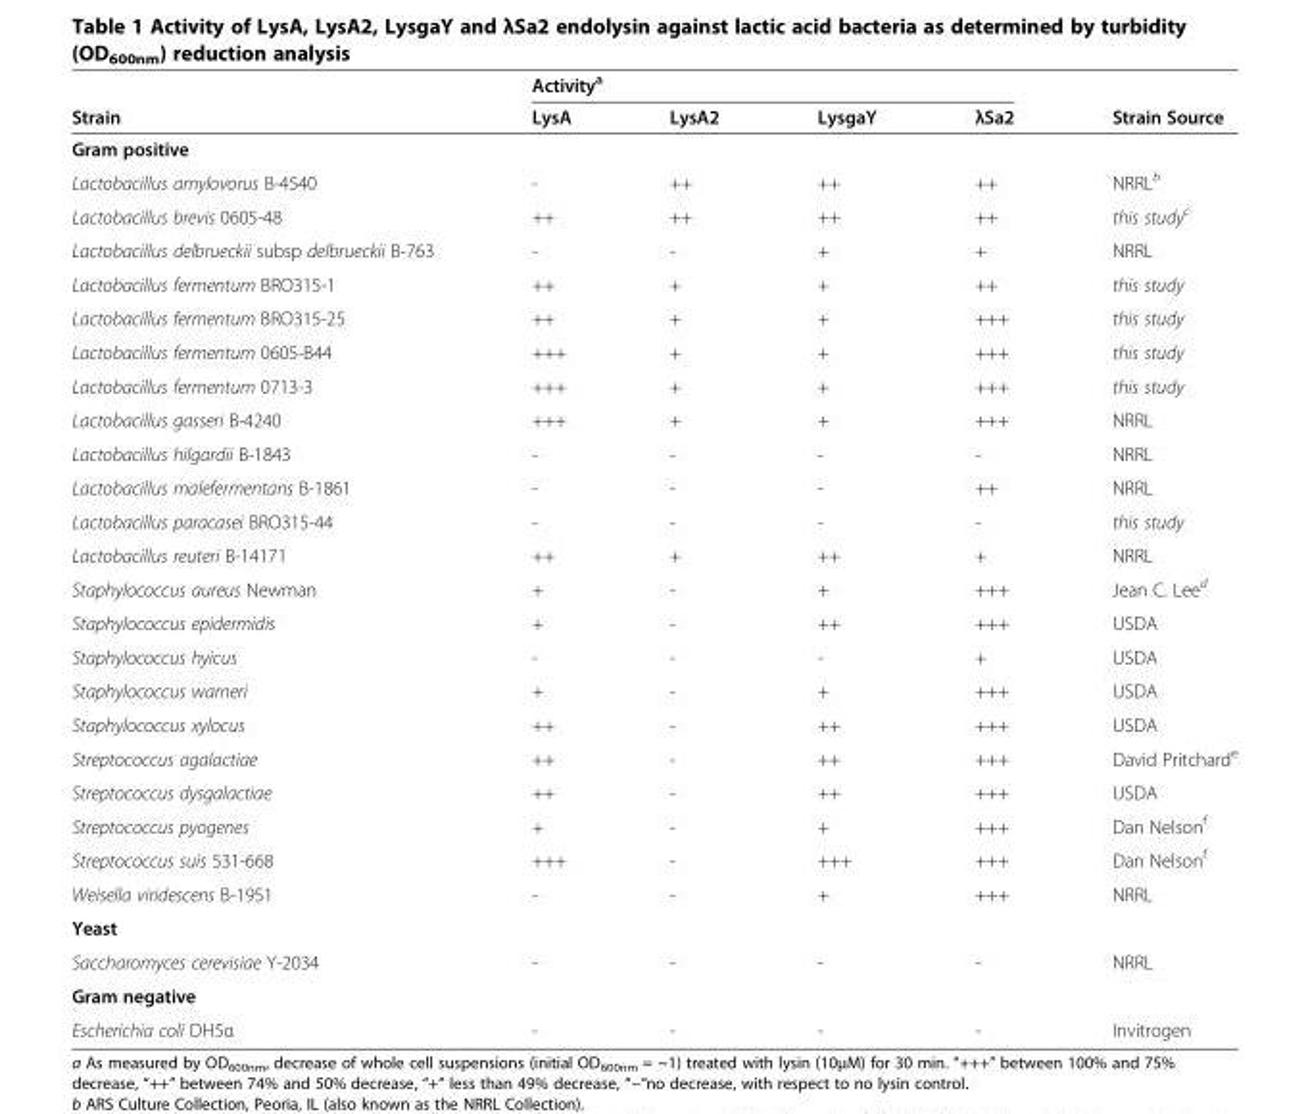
<table><thead><tr><td rowspan="2">Strain</td><td colspan="4">Activity<sup>a</sup></td><td rowspan="2">Strain Source</td></tr><tr><td>LysA</td><td>LysA2</td><td>LysgaY</td><td>λSa2</td></tr></thead><tbody><tr><td colspan="6">Gram positive</td></tr><tr><td>Lactobacillus amylovorus B-4540</td><td>-</td><td>++</td><td>++</td><td>++</td><td>NRRL<sup>b</sup></td></tr><tr><td>Lactobacillus brevis 0605-48</td><td>++</td><td>++</td><td>++</td><td>++</td><td>this study<sup>c</sup></td></tr><tr><td>Lactobacillus delbrueckii subsp delbrueckii B-763</td><td>-</td><td>-</td><td>+</td><td>+</td><td>NRRL</td></tr><tr><td>Lactobacillus fermentum BRO315-1</td><td>++</td><td>+</td><td>+</td><td>++</td><td>this study</td></tr><tr><td>Lactobacillus fermentum BRO315-25</td><td>++</td><td>+</td><td>+</td><td>+++</td><td>this study</td></tr><tr><td>Lactobacillus fermentum 0605-B44</td><td>+++</td><td>+</td><td>+</td><td>+++</td><td>this study</td></tr><tr><td>Lactobacillus fermentum 0713-3</td><td>+++</td><td>+</td><td>+</td><td>+++</td><td>this study</td></tr><tr><td>Lactobacillus gasseri B-4240</td><td>+++</td><td>+</td><td>+</td><td>+++</td><td>NRRL</td></tr><tr><td>Lactobacillus hilgardii B-1843</td><td>-</td><td>-</td><td>-</td><td>-</td><td>NRRL</td></tr><tr><td>Lactobacillus malefermentans B-1861</td><td>-</td><td>-</td><td>-</td><td>++</td><td>NRRL</td></tr><tr><td>Lactobacillus paracasei BRO315-44</td><td>-</td><td>-</td><td>-</td><td>-</td><td>this study</td></tr><tr><td>Lactobacillus reuteri B-14171</td><td>++</td><td>+</td><td>++</td><td>+</td><td>NRRL</td></tr><tr><td>Staphylococcus aureus Newman</td><td>+</td><td>-</td><td>+</td><td>+++</td><td>Jean C. Lee<sup>d</sup></td></tr><tr><td>Staphylococcus epidermidis</td><td>+</td><td>-</td><td>++</td><td>+++</td><td>USDA</td></tr><tr><td>Staphylococcus hyicus</td><td>-</td><td>-</td><td>-</td><td>+</td><td>USDA</td></tr><tr><td>Staphylococcus warneri</td><td>+</td><td>-</td><td>+</td><td>+++</td><td>USDA</td></tr><tr><td>Staphylococcus xylocus</td><td>++</td><td>-</td><td>++</td><td>+++</td><td>USDA</td></tr><tr><td>Streptococcus agalactiae</td><td>++</td><td>-</td><td>++</td><td>+++</td><td>David Pritchard<sup>e</sup></td></tr><tr><td>Streptococcus dysgalactiae</td><td>++</td><td>-</td><td>++</td><td>+++</td><td>USDA</td></tr><tr><td>Streptococcus pyogenes</td><td>+</td><td>-</td><td>+</td><td>+++</td><td>Dan Nelson<sup>f</sup></td></tr><tr><td>Streptococcus suis 531-668</td><td>+++</td><td>-</td><td>+++</td><td>+++</td><td>Dan Nelson<sup>f</sup></td></tr><tr><td>Weisella viridescens B-1951</td><td>-</td><td>-</td><td>+</td><td>+++</td><td>NRRL</td></tr><tr><td colspan="6">Yeast</td></tr><tr><td>Saccharomyces cerevisiae Y-2034</td><td>-</td><td>-</td><td>-</td><td>-</td><td>NRRL</td></tr><tr><td colspan="6">Gram negative</td></tr><tr><td>Escherichia coli DH5α</td><td>-</td><td>-</td><td>-</td><td>-</td><td>Invitrogen</td></tr></tbody></table>